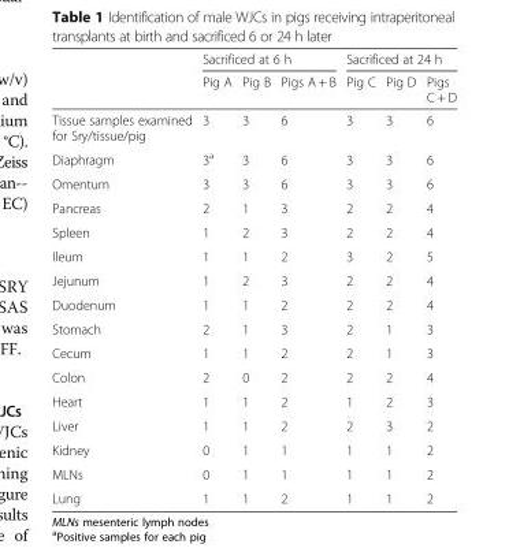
<table><thead><tr><td rowspan="2"></td><td colspan="3">Sacrificed at 6 h</td><td colspan="3">Sacrificed at 24 h</td></tr><tr><td>Pig A</td><td>Pig B</td><td>Pigs A + B</td><td>Pig C</td><td>Pig D</td><td>Pigs C + D</td></tr></thead><tbody><tr><td>Tissue samples examined for Sry/tissue/pig</td><td>3</td><td>3</td><td>6</td><td>3</td><td>3</td><td>6</td></tr><tr><td>Diaphragm</td><td>3<sup>a</sup></td><td>3</td><td>6</td><td>3</td><td>3</td><td>6</td></tr><tr><td>Omentum</td><td>3</td><td>3</td><td>6</td><td>3</td><td>3</td><td>6</td></tr><tr><td>Pancreas</td><td>2</td><td>1</td><td>3</td><td>2</td><td>2</td><td>4</td></tr><tr><td>Spleen</td><td>1</td><td>2</td><td>3</td><td>2</td><td>2</td><td>4</td></tr><tr><td>Ileum</td><td>1</td><td>1</td><td>2</td><td>3</td><td>2</td><td>5</td></tr><tr><td>Jejunum</td><td>1</td><td>2</td><td>3</td><td>2</td><td>2</td><td>4</td></tr><tr><td>Duodenum</td><td>1</td><td>1</td><td>2</td><td>2</td><td>2</td><td>4</td></tr><tr><td>Stomach</td><td>2</td><td>1</td><td>3</td><td>2</td><td>1</td><td>3</td></tr><tr><td>Cecum</td><td>1</td><td>1</td><td>2</td><td>2</td><td>1</td><td>3</td></tr><tr><td>Colon</td><td>2</td><td>0</td><td>2</td><td>2</td><td>2</td><td>4</td></tr><tr><td>Heart</td><td>1</td><td>1</td><td>2</td><td>1</td><td>2</td><td>3</td></tr><tr><td>Liver</td><td>1</td><td>1</td><td>2</td><td>2</td><td>3</td><td>2</td></tr><tr><td>Kidney</td><td>0</td><td>1</td><td>1</td><td>1</td><td>1</td><td>2</td></tr><tr><td>MLNs</td><td>0</td><td>1</td><td>1</td><td>1</td><td>1</td><td>2</td></tr><tr><td>Lung</td><td>1</td><td>1</td><td>2</td><td>1</td><td>1</td><td>2</td></tr></tbody></table>